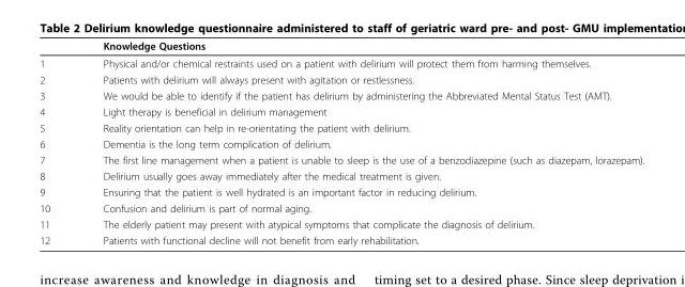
<table><thead><tr><td></td><td>Knowledge Questions</td></tr></thead><tbody><tr><td>1</td><td>Physical and/or chemical restraints used on a patient with delirium will protect them from harming themselves.</td></tr><tr><td>2</td><td>Patients with delirium will always present with agitation or restlessness.</td></tr><tr><td>3</td><td>We would be able to identify if the patient has delirium by administering the Abbreviated Mental Status Test (AMT).</td></tr><tr><td>4</td><td>Light therapy is beneficial in delirium management</td></tr><tr><td>5</td><td>Reality orientation can help in re-orientating the patient with delirium.</td></tr><tr><td>6</td><td>Dementia is the long term complication of delirium.</td></tr><tr><td>7</td><td>The first line management when a patient is unable to sleep is the use of a benzodiazepine (such as diazepam, lorazepam).</td></tr><tr><td>8</td><td>Delirium usually goes away immediately after the medical treatment is given.</td></tr><tr><td>9</td><td>Ensuring that the patient is well hydrated is an important factor in reducing delirium.</td></tr><tr><td>10</td><td>Confusion and delirium is part of normal aging.</td></tr><tr><td>11</td><td>The elderly patient may present with atypical symptoms that complicate the diagnosis of delirium.</td></tr><tr><td>12</td><td>Patients with functional decline will not benefit from early rehabilitation.</td></tr></tbody></table>